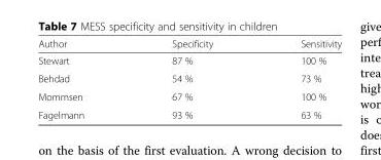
<table><thead><tr><td>Author</td><td>Specificity</td><td>Sensitivity</td></tr></thead><tbody><tr><td>Stewart</td><td>87 %</td><td>100 %</td></tr><tr><td>Behdad</td><td>54 %</td><td>73 %</td></tr><tr><td>Mommsen</td><td>67 %</td><td>100 %</td></tr><tr><td>Fagelmann</td><td>93 %</td><td>63 %</td></tr></tbody></table>